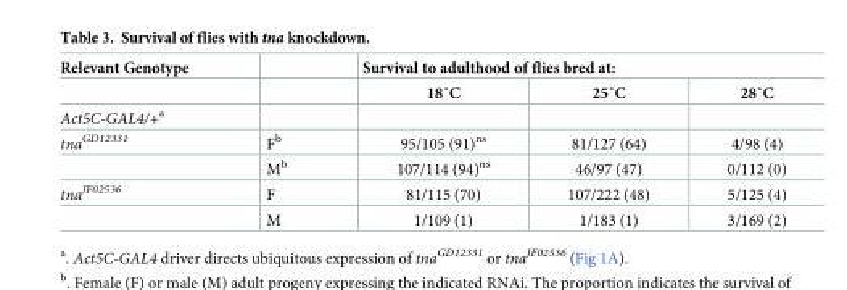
<table><thead><tr><td rowspan="2">Relevant Genotype</td><td rowspan="2"></td><td colspan="3">Survival to adulthood of flies bred at:</td></tr><tr><td>18˚C</td><td>25˚C</td><td>28˚C</td></tr></thead><tbody><tr><td colspan="5">Act5C-GAL4/+<sup>a</sup></td></tr><tr><td rowspan="2">tna<sup>GD12331</sup></td><td>F<sup>b</sup></td><td>95/105 (91)<sup>ns</sup></td><td>81/127 (64)</td><td>4/98 (4)</td></tr><tr><td>M<sup>b</sup></td><td>107/114 (94)<sup>ns</sup></td><td>46/97 (47)</td><td>0/112 (0)</td></tr><tr><td rowspan="2">tna<sup>JF02536</sup></td><td>F</td><td>81/115 (70)</td><td>107/222 (48)</td><td>5/125 (4)</td></tr><tr><td>M</td><td>1/109 (1)</td><td>1/183 (1)</td><td>3/169 (2)</td></tr></tbody></table>